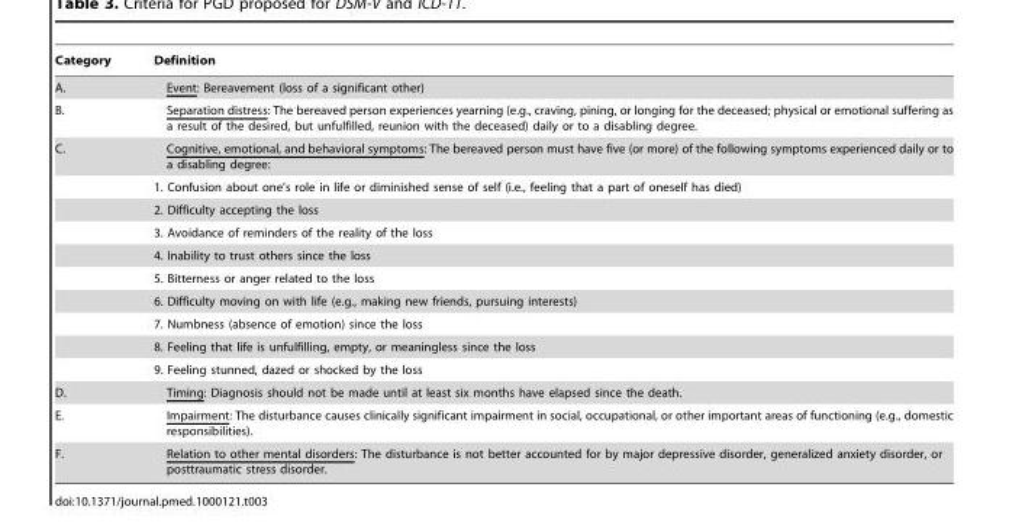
<table><thead><tr><td>Category</td><td>Definition</td></tr></thead><tbody><tr><td>A.</td><td>Event: Bereavement (loss of a significant other)</td></tr><tr><td>B.</td><td>Separation distress: The bereaved person experiences yearning (e.g., craving, pining, or longing for the deceased; physical or emotional suffering as a result of the desired, but unfulfilled, reunion with the deceased) daily or to a disabling degree.</td></tr><tr><td rowspan="10">C.</td><td>Cognitive, emotional, and behavioral symptoms: The bereaved person must have five (or more) of the following symptoms experienced daily or to a disabling degree:</td></tr><tr><td>1. Confusion about one’s role in life or diminished sense of self (i.e., feeling that a part of oneself has died)</td></tr><tr><td>2. Difficulty accepting the loss</td></tr><tr><td>3. Avoidance of reminders of the reality of the loss</td></tr><tr><td>4. Inability to trust others since the loss</td></tr><tr><td>5. Bitterness or anger related to the loss</td></tr><tr><td>6. Difficulty moving on with life (e.g., making new friends, pursuing interests)</td></tr><tr><td>7. Numbness (absence of emotion) since the loss</td></tr><tr><td>8. Feeling that life is unfulfilling, empty, or meaningless since the loss</td></tr><tr><td>9. Feeling stunned, dazed or shocked by the loss</td></tr><tr><td>D.</td><td>Timing: Diagnosis should not be made until at least six months have elapsed since the death.</td></tr><tr><td>E.</td><td>Impairment: The disturbance causes clinically significant impairment in social, occupational, or other important areas of functioning (e.g., domestic responsibilities).</td></tr><tr><td>F.</td><td>Relation to other mental disorders: The disturbance is not better accounted for by major depressive disorder, generalized anxiety disorder, or posttraumatic stress disorder.</td></tr></tbody></table>